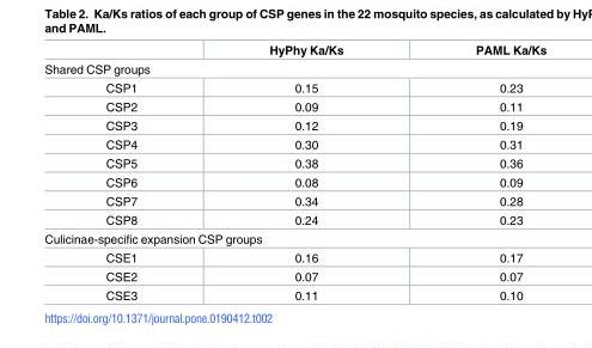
<table><thead><tr><td></td><td>HyPhy Ka/Ks</td><td>PAML Ka/Ks</td></tr></thead><tbody><tr><td colspan="3">Shared CSP groups</td></tr><tr><td>CSP1</td><td>0.15</td><td>0.23</td></tr><tr><td>CSP2</td><td>0.09</td><td>0.11</td></tr><tr><td>CSP3</td><td>0.12</td><td>0.19</td></tr><tr><td>CSP4</td><td>0.30</td><td>0.31</td></tr><tr><td>CSP5</td><td>0.38</td><td>0.36</td></tr><tr><td>CSP6</td><td>0.08</td><td>0.09</td></tr><tr><td>CSP7</td><td>0.34</td><td>0.28</td></tr><tr><td>CSP8</td><td>0.24</td><td>0.23</td></tr><tr><td colspan="3">Culicinae-specific expansion CSP groups</td></tr><tr><td>CSE1</td><td>0.16</td><td>0.17</td></tr><tr><td>CSE2</td><td>0.07</td><td>0.07</td></tr><tr><td>CSE3</td><td>0.11</td><td>0.10</td></tr></tbody></table>